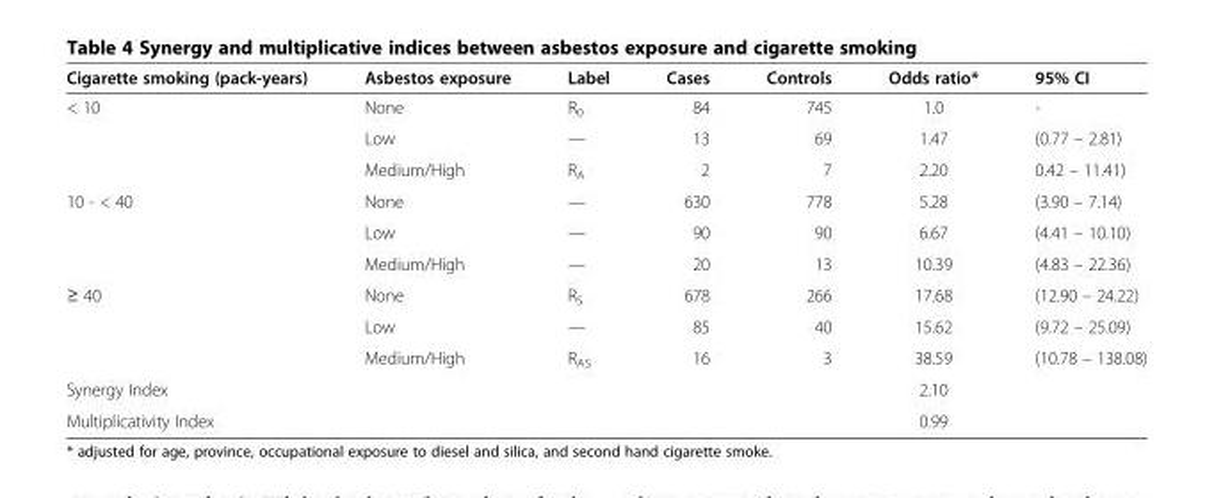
<table><thead><tr><td>Cigarette smoking (pack-years)</td><td>Asbestos exposure</td><td>Label</td><td>Cases</td><td>Controls</td><td>Odds ratio*</td><td>95% CI</td></tr></thead><tbody><tr><td rowspan="3">&lt; 10</td><td>None</td><td>R<sub>0</sub></td><td>84</td><td>745</td><td>1.0</td><td>-</td></tr><tr><td>Low</td><td>—</td><td>13</td><td>69</td><td>1.47</td><td>(0.77 – 2.81)</td></tr><tr><td>Medium/High</td><td>R<sub>A</sub></td><td>2</td><td>7</td><td>2.20</td><td>0.42 – 11.41)</td></tr><tr><td rowspan="3">10 - &lt; 40</td><td>None</td><td>—</td><td>630</td><td>778</td><td>5.28</td><td>(3.90 – 7.14)</td></tr><tr><td>Low</td><td>—</td><td>90</td><td>90</td><td>6.67</td><td>(4.41 – 10.10)</td></tr><tr><td>Medium/High</td><td>—</td><td>20</td><td>13</td><td>10.39</td><td>(4.83 – 22.36)</td></tr><tr><td rowspan="3">≥ 40</td><td>None</td><td>R<sub>S</sub></td><td>678</td><td>266</td><td>17.68</td><td>(12.90 – 24.22)</td></tr><tr><td>Low</td><td>—</td><td>85</td><td>40</td><td>15.62</td><td>(9.72 – 25.09)</td></tr><tr><td>Medium/High</td><td>R<sub>AS</sub></td><td>16</td><td>3</td><td>38.59</td><td>(10.78 – 138.08)</td></tr><tr><td>Synergy Index</td><td></td><td></td><td></td><td></td><td>2.10</td><td></td></tr><tr><td>Multiplicativity Index</td><td></td><td></td><td></td><td></td><td>0.99</td><td></td></tr></tbody></table>